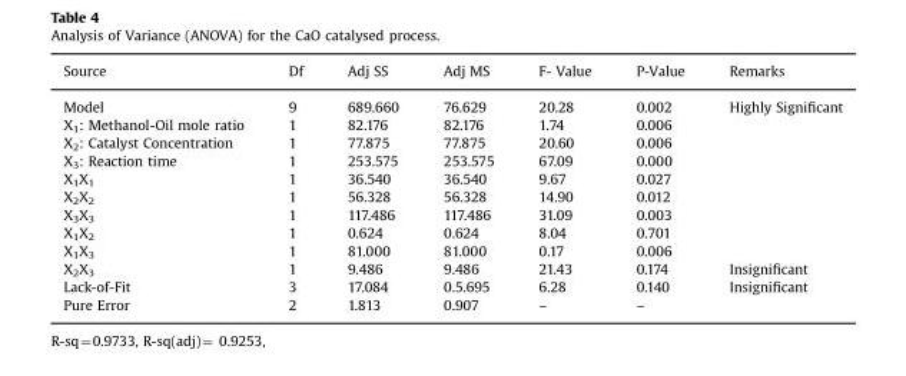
<table><thead><tr><td>Source</td><td>Df</td><td>Adj SS</td><td>Adj MS</td><td>F- Value</td><td>P-Value</td><td>Remarks</td></tr></thead><tbody><tr><td>Model</td><td>9</td><td>689.660</td><td>76.629</td><td>20.28</td><td>0.002</td><td rowspan="9">Highly Significant</td></tr><tr><td>X<sub>1</sub>: Methanol-Oil mole ratio</td><td>1</td><td>82.176</td><td>82.176</td><td>1.74</td><td>0.006</td></tr><tr><td>X<sub>2</sub>: Catalyst Concentration</td><td>1</td><td>77.875</td><td>77.875</td><td>20.60</td><td>0.006</td></tr><tr><td>X<sub>3</sub>: Reaction time</td><td>1</td><td>253.575</td><td>253.575</td><td>67.09</td><td>0.000</td></tr><tr><td>X<sub>1</sub>X<sub>1</sub></td><td>1</td><td>36.540</td><td>36.540</td><td>9.67</td><td>0.027</td></tr><tr><td>X<sub>2</sub>X<sub>2</sub></td><td>1</td><td>56.328</td><td>56.328</td><td>14.90</td><td>0.012</td></tr><tr><td>X<sub>3</sub>X<sub>3</sub></td><td>1</td><td>117.486</td><td>117.486</td><td>31.09</td><td>0.003</td></tr><tr><td>X<sub>1</sub>X<sub>2</sub></td><td>1</td><td>0.624</td><td>0.624</td><td>8.04</td><td>0.701</td></tr><tr><td>X<sub>1</sub>X<sub>3</sub></td><td>1</td><td>81.000</td><td>81.000</td><td>0.17</td><td>0.006</td></tr><tr><td>X<sub>2</sub>X<sub>3</sub></td><td>1</td><td>9.486</td><td>9.486</td><td>21.43</td><td>0.174</td><td>Insignificant</td></tr><tr><td>Lack-of-Fit</td><td>3</td><td>17.084</td><td>0.5.695</td><td>6.28</td><td>0.140</td><td>Insignificant</td></tr><tr><td>Pure Error</td><td>2</td><td>1.813</td><td>0.907</td><td>–</td><td>–</td><td></td></tr></tbody></table>